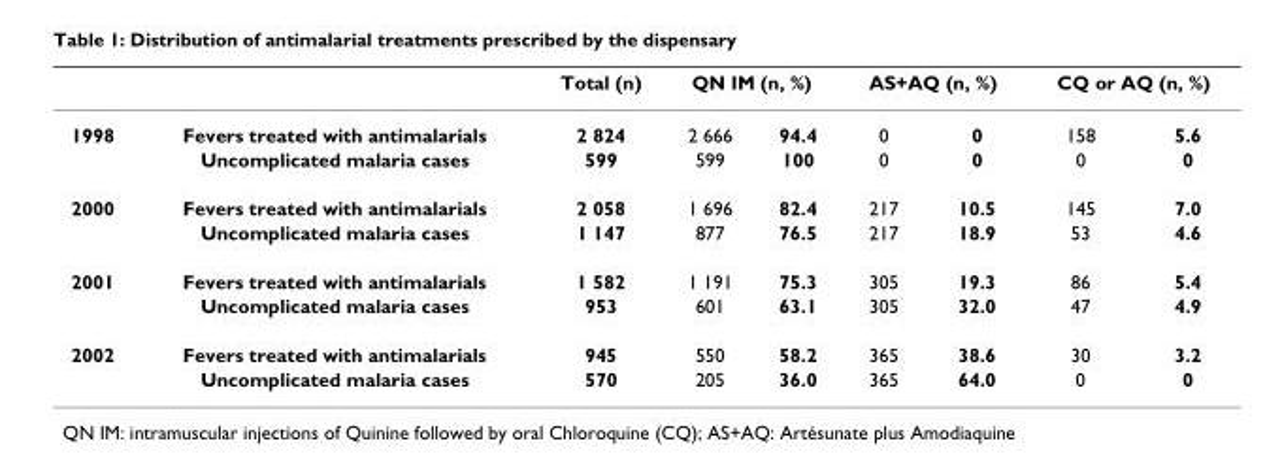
<table><thead><tr><td rowspan="2">1998</td><td rowspan="2">Fevers treated with antimalarials</td><td rowspan="2">Total (n) 2 824</td><td colspan="2">QN IM (n, %)</td><td colspan="2">AS+AQ (n, %)</td><td colspan="2">CQ or AQ (n, %)</td></tr><tr><td>2 666</td><td>94.4</td><td>0</td><td>0</td><td>158</td><td>5.6</td></tr></thead><tbody><tr><td></td><td>Uncomplicated malaria cases</td><td>599</td><td>599</td><td>100</td><td>0</td><td>0</td><td>0</td><td>0</td></tr><tr><td rowspan="2">2000</td><td>Fevers treated with antimalarials</td><td>2 058</td><td>1 696</td><td>82.4</td><td>217</td><td>10.5</td><td>145</td><td>7.0</td></tr><tr><td>Uncomplicated malaria cases</td><td>1 147</td><td>877</td><td>76.5</td><td>217</td><td>18.9</td><td>53</td><td>4.6</td></tr><tr><td rowspan="2">2001</td><td>Fevers treated with antimalarials</td><td>1 582</td><td>1 191</td><td>75.3</td><td>305</td><td>19.3</td><td>86</td><td>5.4</td></tr><tr><td>Uncomplicated malaria cases</td><td>953</td><td>601</td><td>63.1</td><td>305</td><td>32.0</td><td>47</td><td>4.9</td></tr><tr><td rowspan="2">2002</td><td>Fevers treated with antimalarials</td><td>945</td><td>550</td><td>58.2</td><td>365</td><td>38.6</td><td>30</td><td>3.2</td></tr><tr><td>Uncomplicated malaria cases</td><td>570</td><td>205</td><td>36.0</td><td>365</td><td>64.0</td><td>0</td><td>0</td></tr></tbody></table>